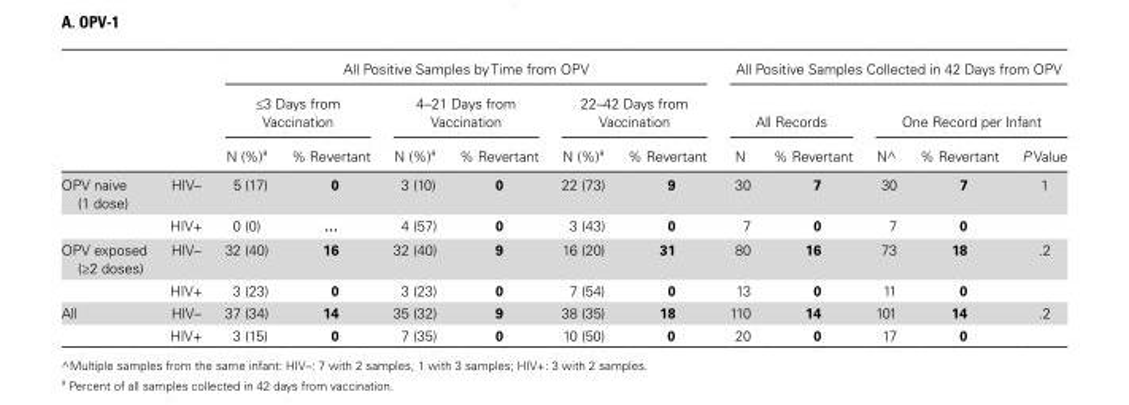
<table><thead><tr><td rowspan="3"></td><td rowspan="3"></td><td colspan="6">All Positive Samples by Time from OPV</td><td colspan="5">All Positive Samples Collected in 42 Days from OPV</td></tr><tr><td colspan="2">≤3 Days from Vaccination</td><td colspan="2">4–21 Days from Vaccination</td><td colspan="2">22–42 Days from Vaccination</td><td colspan="2">All Records</td><td colspan="3">One Record per Infant</td></tr><tr><td>N (%)<sup>a</sup></td><td>% Revertant</td><td>N (%)<sup>a</sup></td><td>% Revertant</td><td>N (%)<sup>a</sup></td><td>% Revertant</td><td>N</td><td>% Revertant</td><td>N^</td><td>% Revertant</td><td>P Value</td></tr></thead><tbody><tr><td rowspan="2">OPV naive (1 dose)</td><td>HIV–</td><td>5 (17)</td><td>0</td><td>3 (10)</td><td>0</td><td>22 (73)</td><td>9</td><td>30</td><td>7</td><td>30</td><td>7</td><td>1</td></tr><tr><td>HIV+</td><td>0 (0)</td><td>…</td><td>4 (57)</td><td>0</td><td>3 (43)</td><td>0</td><td>7</td><td>0</td><td>7</td><td>0</td><td></td></tr><tr><td rowspan="2">OPV exposed (≥2 doses)</td><td>HIV–</td><td>32 (40)</td><td>16</td><td>32 (40)</td><td>9</td><td>16 (20)</td><td>31</td><td>80</td><td>16</td><td>73</td><td>18</td><td>.2</td></tr><tr><td>HIV+</td><td>3 (23)</td><td>0</td><td>3 (23)</td><td>0</td><td>7 (54)</td><td>0</td><td>13</td><td>0</td><td>11</td><td>0</td><td></td></tr><tr><td rowspan="2">All</td><td>HIV–</td><td>37 (34)</td><td>14</td><td>35 (32)</td><td>9</td><td>38 (35)</td><td>18</td><td>110</td><td>14</td><td>101</td><td>14</td><td>.2</td></tr><tr><td>HIV+</td><td>3 (15)</td><td>0</td><td>7 (35)</td><td>0</td><td>10 (50)</td><td>0</td><td>20</td><td>0</td><td>17</td><td>0</td><td></td></tr></tbody></table>